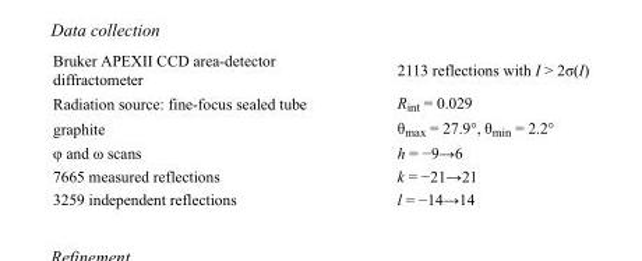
<table><tbody><tr><td>Bruker APEXII CCD area-detector diffractometer</td><td>2113 reflections with I &gt; 2σ(I)</td></tr><tr><td>Radiation source: fine-focus sealed tube</td><td>R<sub>int</sub> = 0.029</td></tr><tr><td>graphite</td><td>θ<sub>max</sub> = 27.9°, θ<sub>min</sub> = 2.2°</td></tr><tr><td>φ and ω scans</td><td>h = −9→6</td></tr><tr><td>7665 measured reflections</td><td>k = −21→21</td></tr><tr><td>3259 independent reflections</td><td>l = −14→14</td></tr></tbody></table>